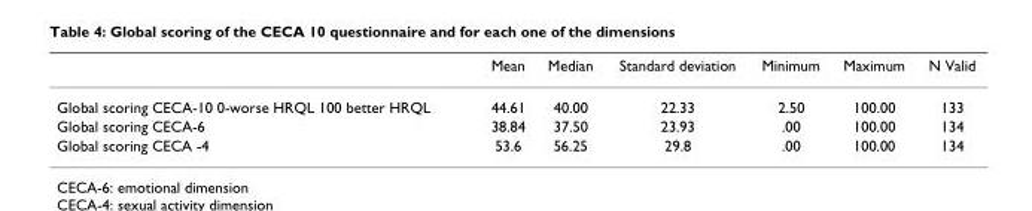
<table><thead><tr><td></td><td>Mean</td><td>Median</td><td>Standard deviation</td><td>Minimum</td><td>Maximum</td><td>N Valid</td></tr></thead><tbody><tr><td>Global scoring CECA-10 0-worse HRQL 100 better HRQL</td><td>44.61</td><td>40.00</td><td>22.33</td><td>2.50</td><td>100.00</td><td>133</td></tr><tr><td>Global scoring CECA-6</td><td>38.84</td><td>37.50</td><td>23.93</td><td>.00</td><td>100.00</td><td>134</td></tr><tr><td>Global scoring CECA -4</td><td>53.6</td><td>56.25</td><td>29.8</td><td>.00</td><td>100.00</td><td>134</td></tr></tbody></table>